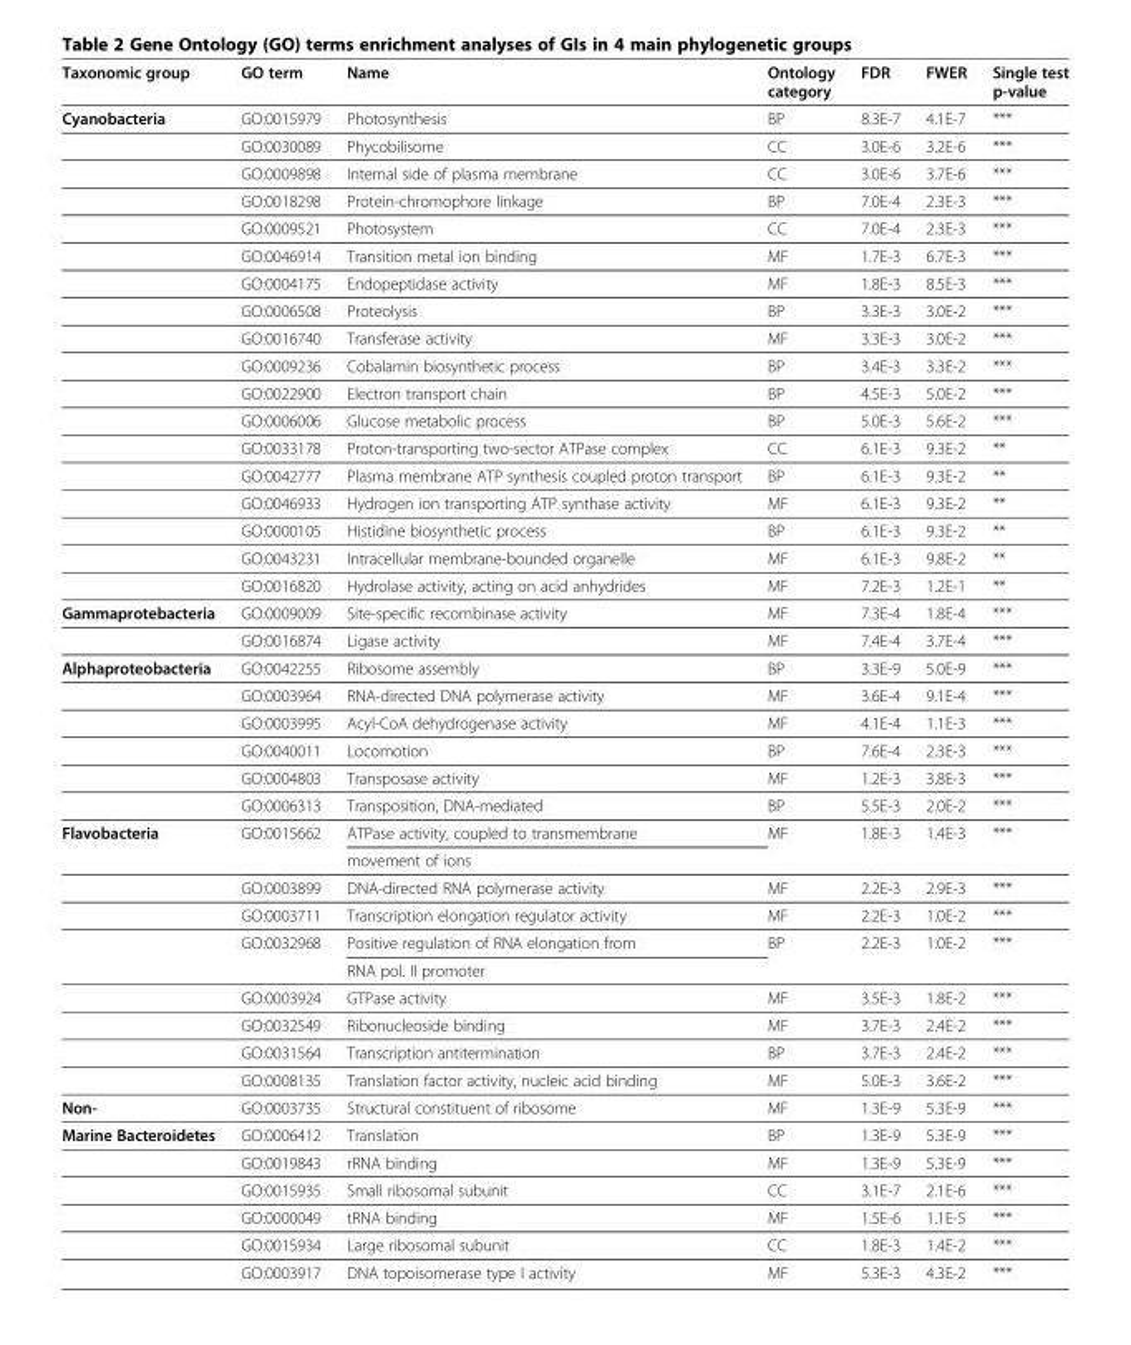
<table><thead><tr><td>Taxonomic group</td><td>GO term</td><td>Name</td><td>Ontology category</td><td>FDR</td><td>FWER</td><td>Single test p-value</td></tr></thead><tbody><tr><td rowspan="18">Cyanobacteria</td><td>GO:0015979</td><td>Photosynthesis</td><td>BP</td><td>8.3E-7</td><td>4.1E-7</td><td>***</td></tr><tr><td>GO:0030089</td><td>Phycobilisome</td><td>CC</td><td>3.0E-6</td><td>3.2E-6</td><td>***</td></tr><tr><td>GO:0009898</td><td>Internal side of plasma membrane</td><td>CC</td><td>3.0E-6</td><td>3.7E-6</td><td>***</td></tr><tr><td>GO:0018298</td><td>Protein-chromophore linkage</td><td>BP</td><td>7.0E-4</td><td>2.3E-3</td><td>***</td></tr><tr><td>GO:0009521</td><td>Photosystem</td><td>CC</td><td>7.0E-4</td><td>2.3E-3</td><td>***</td></tr><tr><td>GO:0046914</td><td>Transition metal ion binding</td><td>MF</td><td>1.7E-3</td><td>6.7E-3</td><td>***</td></tr><tr><td>GO:0004175</td><td>Endopeptidase activity</td><td>MF</td><td>1.8E-3</td><td>8.5E-3</td><td>***</td></tr><tr><td>GO:0006508</td><td>Proteolysis</td><td>BP</td><td>3.3E-3</td><td>3.0E-2</td><td>***</td></tr><tr><td>GO:0016740</td><td>Transferase activity</td><td>MF</td><td>3.3E-3</td><td>3.0E-2</td><td>***</td></tr><tr><td>GO:0009236</td><td>Cobalamin biosynthetic process</td><td>BP</td><td>3.4E-3</td><td>3.3E-2</td><td>***</td></tr><tr><td>GO:0022900</td><td>Electron transport chain</td><td>BP</td><td>4.5E-3</td><td>5.0E-2</td><td>***</td></tr><tr><td>GO:0006006</td><td>Glucose metabolic process</td><td>BP</td><td>5.0E-3</td><td>5.6E-2</td><td>***</td></tr><tr><td>GO:0033178</td><td>Proton-transporting two-sector ATPase complex</td><td>CC</td><td>6.1E-3</td><td>9.3E-2</td><td>**</td></tr><tr><td>GO:0042777</td><td>Plasma membrane ATP synthesis coupled proton transport</td><td>BP</td><td>6.1E-3</td><td>9.3E-2</td><td>**</td></tr><tr><td>GO:0046933</td><td>Hydrogen ion transporting ATP synthase activity</td><td>MF</td><td>6.1E-3</td><td>9.3E-2</td><td>**</td></tr><tr><td>GO:0000105</td><td>Histidine biosynthetic process</td><td>BP</td><td>6.1E-3</td><td>9.3E-2</td><td>**</td></tr><tr><td>GO:0043231</td><td>Intracellular membrane-bounded organelle</td><td>MF</td><td>6.1E-3</td><td>9.8E-2</td><td>**</td></tr><tr><td>GO:0016820</td><td>Hydrolase activity, acting on acid anhydrides</td><td>MF</td><td>7.2E-3</td><td>1.2E-1</td><td>**</td></tr><tr><td rowspan="2">Gammaprotebacteria</td><td>GO:0009009</td><td>Site-specific recombinase activity</td><td>MF</td><td>7.3E-4</td><td>1.8E-4</td><td>***</td></tr><tr><td>GO:0016874</td><td>Ligase activity</td><td>MF</td><td>7.4E-4</td><td>3.7E-4</td><td>***</td></tr><tr><td rowspan="6">Alphaproteobacteria</td><td>GO:0042255</td><td>Ribosome assembly</td><td>BP</td><td>3.3E-9</td><td>5.0E-9</td><td>***</td></tr><tr><td>GO:0003964</td><td>RNA-directed DNA polymerase activity</td><td>MF</td><td>3.6E-4</td><td>9.1E-4</td><td>***</td></tr><tr><td>GO:0003995</td><td>Acyl-CoA dehydrogenase activity</td><td>MF</td><td>4.1E-4</td><td>1.1E-3</td><td>***</td></tr><tr><td>GO:0040011</td><td>Locomotion</td><td>BP</td><td>7.6E-4</td><td>2.3E-3</td><td>***</td></tr><tr><td>GO:0004803</td><td>Transposase activity</td><td>MF</td><td>1.2E-3</td><td>3.8E-3</td><td>***</td></tr><tr><td>GO:0006313</td><td>Transposition, DNA-mediated</td><td>BP</td><td>5.5E-3</td><td>2.0E-2</td><td>***</td></tr><tr><td rowspan="10">Flavobacteria</td><td rowspan="2">GO:0015662</td><td>ATPase activity, coupled to transmembrane</td><td rowspan="2">MF</td><td rowspan="2">1.8E-3</td><td rowspan="2">1.4E-3</td><td rowspan="2">***</td></tr><tr><td>movement of ions</td></tr><tr><td>GO:0003899</td><td>DNA-directed RNA polymerase activity</td><td>MF</td><td>2.2E-3</td><td>2.9E-3</td><td>***</td></tr><tr><td>GO:0003711</td><td>Transcription elongation regulator activity</td><td>MF</td><td>2.2E-3</td><td>1.0E-2</td><td>***</td></tr><tr><td rowspan="2">GO:0032968</td><td>Positive regulation of RNA elongation from</td><td rowspan="2">BP</td><td rowspan="2">2.2E-3</td><td rowspan="2">1.0E-2</td><td rowspan="2">***</td></tr><tr><td>RNA pol. II promoter</td></tr><tr><td>GO:0003924</td><td>GTPase activity</td><td>MF</td><td>3.5E-3</td><td>1.8E-2</td><td>***</td></tr><tr><td>GO:0032549</td><td>Ribonucleoside binding</td><td>MF</td><td>3.7E-3</td><td>2.4E-2</td><td>***</td></tr><tr><td>GO:0031564</td><td>Transcription antitermination</td><td>BP</td><td>3.7E-3</td><td>2.4E-2</td><td>***</td></tr><tr><td>GO:0008135</td><td>Translation factor activity, nucleic acid binding</td><td>MF</td><td>5.0E-3</td><td>3.6E-2</td><td>***</td></tr><tr><td>Non-</td><td>GO:0003735</td><td>Structural constituent of ribosome</td><td>MF</td><td>1.3E-9</td><td>5.3E-9</td><td>***</td></tr><tr><td rowspan="6">Marine Bacteroidetes</td><td>GO:0006412</td><td>Translation</td><td>BP</td><td>1.3E-9</td><td>5.3E-9</td><td>***</td></tr><tr><td>GO:0019843</td><td>rRNA binding</td><td>MF</td><td>1.3E-9</td><td>5.3E-9</td><td>***</td></tr><tr><td>GO:0015935</td><td>Small ribosomal subunit</td><td>CC</td><td>3.1E-7</td><td>2.1E-6</td><td>***</td></tr><tr><td>GO:0000049</td><td>tRNA binding</td><td>MF</td><td>1.5E-6</td><td>1.1E-5</td><td>***</td></tr><tr><td>GO:0015934</td><td>Large ribosomal subunit</td><td>CC</td><td>1.8E-3</td><td>1.4E-2</td><td>***</td></tr><tr><td>GO:0003917</td><td>DNA topoisomerase type I activity</td><td>MF</td><td>5.3E-3</td><td>4.3E-2</td><td>***</td></tr></tbody></table>